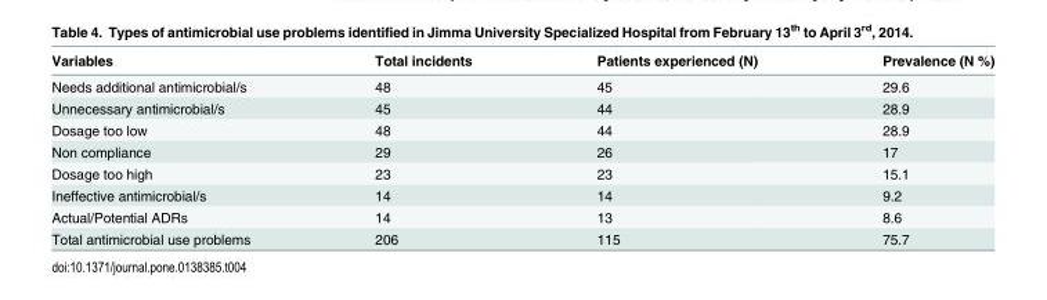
<table><thead><tr><td>Variables</td><td>Total incidents</td><td>Patients experienced (N)</td><td>Prevalence (N %)</td></tr></thead><tbody><tr><td>Needs additional antimicrobial/s</td><td>48</td><td>45</td><td>29.6</td></tr><tr><td>Unnecessary antimicrobial/s</td><td>45</td><td>44</td><td>28.9</td></tr><tr><td>Dosage too low</td><td>48</td><td>44</td><td>28.9</td></tr><tr><td>Non compliance</td><td>29</td><td>26</td><td>17</td></tr><tr><td>Dosage too high</td><td>23</td><td>23</td><td>15.1</td></tr><tr><td>Ineffective antimicrobial/s</td><td>14</td><td>14</td><td>9.2</td></tr><tr><td>Actual/Potential ADRs</td><td>14</td><td>13</td><td>8.6</td></tr><tr><td>Total antimicrobial use problems</td><td>206</td><td>115</td><td>75.7</td></tr></tbody></table>